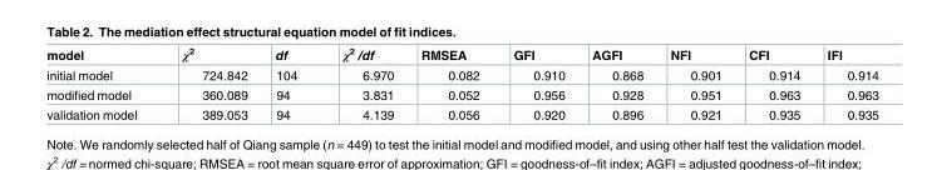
<table><thead><tr><td>model</td><td>χ<sup>2</sup></td><td>df</td><td>χ<sup>2</sup> /df</td><td>RMSEA</td><td>GFI</td><td>AGFI</td><td>NFI</td><td>CFI</td><td>IFI</td></tr></thead><tbody><tr><td>initial model</td><td>724.842</td><td>104</td><td>6.970</td><td>0.082</td><td>0.910</td><td>0.868</td><td>0.901</td><td>0.914</td><td>0.914</td></tr><tr><td>modified model</td><td>360.089</td><td>94</td><td>3.831</td><td>0.052</td><td>0.956</td><td>0.928</td><td>0.951</td><td>0.963</td><td>0.963</td></tr><tr><td>validation model</td><td>389.053</td><td>94</td><td>4.139</td><td>0.056</td><td>0.920</td><td>0.896</td><td>0.921</td><td>0.935</td><td>0.935</td></tr></tbody></table>